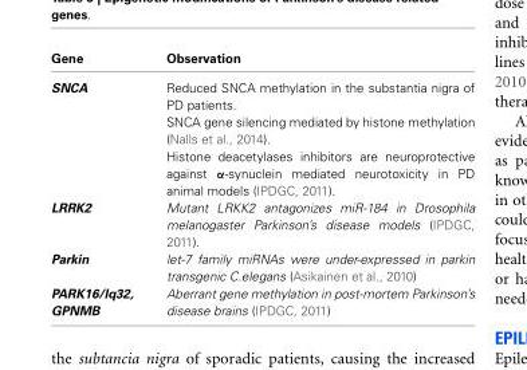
<table><thead><tr><td>Gene</td><td>Observation</td></tr></thead><tbody><tr><td rowspan="3">SNCA</td><td>Reduced SNCA methylation in the substantia nigra of PD patients.</td></tr><tr><td>SNCA gene silencing mediated by histone methylation (Nalls et al., 2014).</td></tr><tr><td>Histone deacetylases inhibitors are neuroprotective against α-synuclein mediated neurotoxicity in PD animal models (IPDGC, 2011).</td></tr><tr><td>LRRK2</td><td>Mutant LRKK2 antagonizes miR-184 in Drosophila melanogaster Parkinson’s disease models (IPDGC, 2011).</td></tr><tr><td>Parkin</td><td>let-7 family miRNAs were under-expressed in parkin transgenic C.elegans (Asikainen et al., 2010)</td></tr><tr><td>PARK16/lq32, GPNMB</td><td>Aberrant gene methylation in post-mortem Parkinson’s disease brains (IPDGC, 2011)</td></tr></tbody></table>